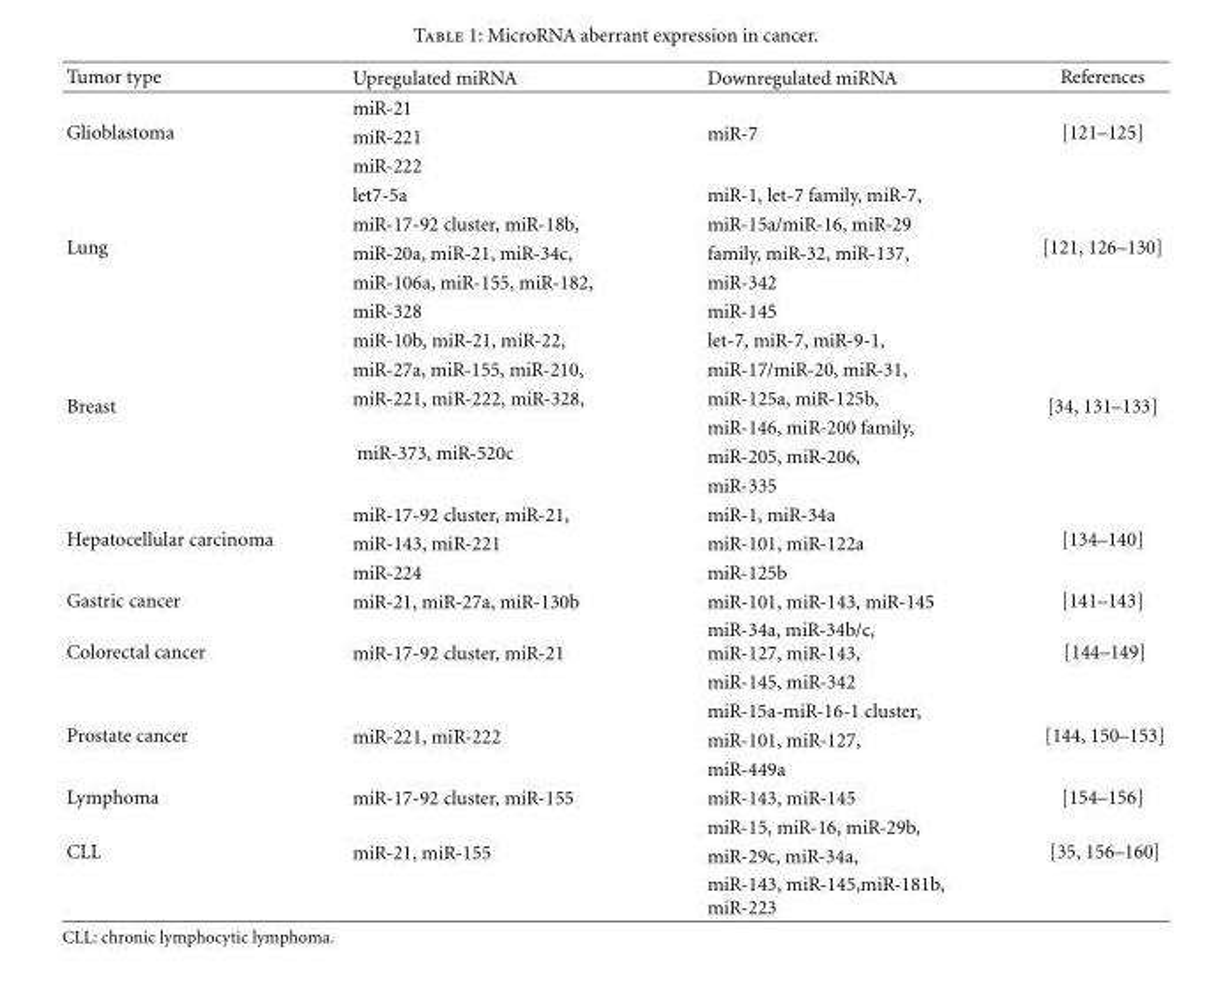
<table><thead><tr><td>Tumor type</td><td>Upregulated miRNA</td><td>Downregulated miRNA</td><td>References</td></tr></thead><tbody><tr><td rowspan="3">Glioblastoma</td><td>miR-21</td><td rowspan="3">miR-7</td><td rowspan="3">[121–125]</td></tr><tr><td>miR-221</td></tr><tr><td>miR-222</td></tr><tr><td rowspan="5">Lung</td><td>let7-5a</td><td>miR-1, let-7 family, miR-7,</td><td rowspan="5">[121, 126–130]</td></tr><tr><td>miR-17-92 cluster, miR-18b,</td><td>miR-15a/miR-16, miR-29</td></tr><tr><td>miR-20a, miR-21, miR-34c,</td><td>family, miR-32, miR-137,</td></tr><tr><td>miR-106a, miR-155, miR-182,</td><td>miR-342</td></tr><tr><td>miR-328</td><td>miR-145</td></tr><tr><td rowspan="6">Breast</td><td>miR-10b, miR-21, miR-22,</td><td>let-7, miR-7, miR-9-1,</td><td rowspan="6">[34, 131–133]</td></tr><tr><td>miR-27a, miR-155, miR-210,</td><td>miR-17/miR-20, miR-31,</td></tr><tr><td>miR-221, miR-222, miR-328,</td><td>miR-125a, miR-125b,</td></tr><tr><td rowspan="3">miR-373, miR-520c</td><td>miR-146, miR-200 family,</td></tr><tr><td>miR-205, miR-206,</td></tr><tr><td>miR-335</td></tr><tr><td rowspan="3">Hepatocellular carcinoma</td><td>miR-17-92 cluster, miR-21,</td><td>miR-1, miR-34a</td><td rowspan="3">[134–140]</td></tr><tr><td>miR-143, miR-221</td><td>miR-101, miR-122a</td></tr><tr><td>miR-224</td><td>miR-125b</td></tr><tr><td>Gastric cancer</td><td>miR-21, miR-27a, miR-130b</td><td>miR-101, miR-143, miR-145</td><td>[141–143]</td></tr><tr><td rowspan="2">Colorectal cancer</td><td rowspan="2">miR-17-92 cluster, miR-21</td><td>miR-34a, miR-34b/c, miR-127, miR-143,</td><td rowspan="2">[144–149]</td></tr><tr><td>miR-145, miR-342</td></tr><tr><td rowspan="3">Prostate cancer</td><td rowspan="3">miR-221, miR-222</td><td>miR-15a-miR-16-1 cluster,</td><td rowspan="3">[144, 150–153]</td></tr><tr><td>miR-101, miR-127,</td></tr><tr><td>miR-449a</td></tr><tr><td>Lymphoma</td><td>miR-17-92 cluster, miR-155</td><td>miR-143, miR-145</td><td>[154–156]</td></tr><tr><td rowspan="3">CLL</td><td rowspan="3">miR-21, miR-155</td><td>miR-15, miR-16, miR-29b,</td><td rowspan="3">[35, 156–160]</td></tr><tr><td>miR-29c, miR-34a,</td></tr><tr><td>miR-143, miR-145,miR-181b, miR-223</td></tr></tbody></table>